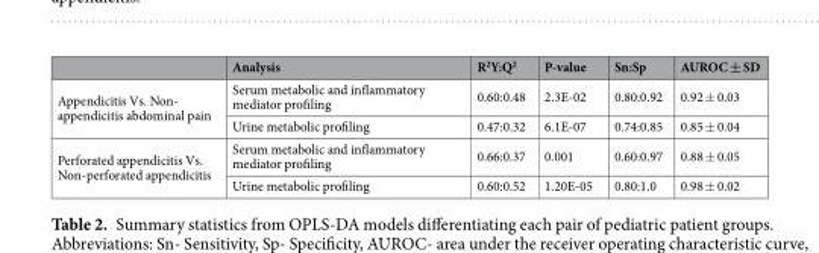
<table><thead><tr><td></td><td>Analysis</td><td>R<sup>2</sup>Y:Q<sup>2</sup></td><td>P-value</td><td>Sn:Sp</td><td>AUROC ± SD</td></tr></thead><tbody><tr><td rowspan="2">Appendicitis Vs. Non- appendicitis abdominal pain</td><td>Serum metabolic and inflammatory mediator profiling</td><td>0.60:0.48</td><td>2.3E-02</td><td>0.80:0.92</td><td>0.92 ± 0.03</td></tr><tr><td>Urine metabolic profiling</td><td>0.47:0.32</td><td>6.1E-07</td><td>0.74:0.85</td><td>0.85 ± 0.04</td></tr><tr><td rowspan="2">Perforated appendicitis Vs. Non-perforated appendicitis</td><td>Serum metabolic and inflammatory mediator profiling</td><td>0.66:0.37</td><td>0.001</td><td>0.60:0.97</td><td>0.88 ± 0.05</td></tr><tr><td>Urine metabolic profiling</td><td>0.60:0.52</td><td>1.20E-05</td><td>0.80:1.0</td><td>0.98 ± 0.02</td></tr></tbody></table>